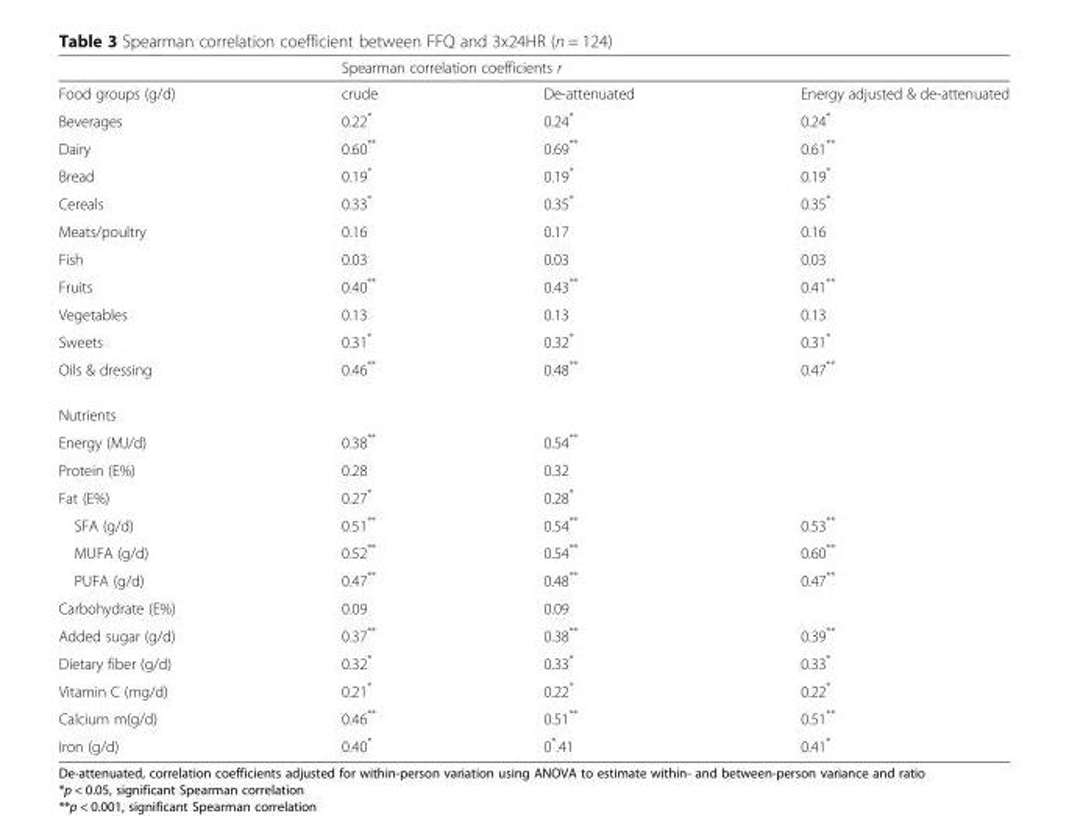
<table><thead><tr><td rowspan="2">Food groups (g/d)</td><td colspan="3">Spearman correlation coefficients r</td></tr><tr><td>crude</td><td>De-attenuated</td><td>Energy adjusted &amp; de-attenuated</td></tr></thead><tbody><tr><td>Beverages</td><td>0.22*</td><td>0.24*</td><td>0.24*</td></tr><tr><td>Dairy</td><td>0.60**</td><td>0.69**</td><td>0.61**</td></tr><tr><td>Bread</td><td>0.19*</td><td>0.19*</td><td>0.19*</td></tr><tr><td>Cereals</td><td>0.33*</td><td>0.35*</td><td>0.35*</td></tr><tr><td>Meats/poultry</td><td>0.16</td><td>0.17</td><td>0.16</td></tr><tr><td>Fish</td><td>0.03</td><td>0.03</td><td>0.03</td></tr><tr><td>Fruits</td><td>0.40**</td><td>0.43**</td><td>0.41**</td></tr><tr><td>Vegetables</td><td>0.13</td><td>0.13</td><td>0.13</td></tr><tr><td>Sweets</td><td>0.31*</td><td>0.32*</td><td>0.31*</td></tr><tr><td>Oils &amp; dressing</td><td>0.46**</td><td>0.48**</td><td>0.47**</td></tr><tr><td colspan="4">Nutrients</td></tr><tr><td>Energy (MJ/d)</td><td>0.38**</td><td>0.54**</td><td></td></tr><tr><td>Protein (E%)</td><td>0.28</td><td>0.32</td><td></td></tr><tr><td>Fat (E%)</td><td>0.27*</td><td>0.28*</td><td></td></tr><tr><td>SFA (g/d)</td><td>0.51**</td><td>0.54**</td><td>0.53**</td></tr><tr><td>MUFA (g/d)</td><td>0.52**</td><td>0.54**</td><td>0.60**</td></tr><tr><td>PUFA (g/d)</td><td>0.47**</td><td>0.48**</td><td>0.47**</td></tr><tr><td>Carbohydrate (E%)</td><td>0.09</td><td>0.09</td><td></td></tr><tr><td>Added sugar (g/d)</td><td>0.37**</td><td>0.38**</td><td>0.39**</td></tr><tr><td>Dietary fiber (g/d)</td><td>0.32*</td><td>0.33*</td><td>0.33*</td></tr><tr><td>Vitamin C (mg/d)</td><td>0.21*</td><td>0.22*</td><td>0.22*</td></tr><tr><td>Calcium m(g/d)</td><td>0.46**</td><td>0.51**</td><td>0.51**</td></tr><tr><td>Iron (g/d)</td><td>0.40*</td><td>0*.41</td><td>0.41*</td></tr></tbody></table>